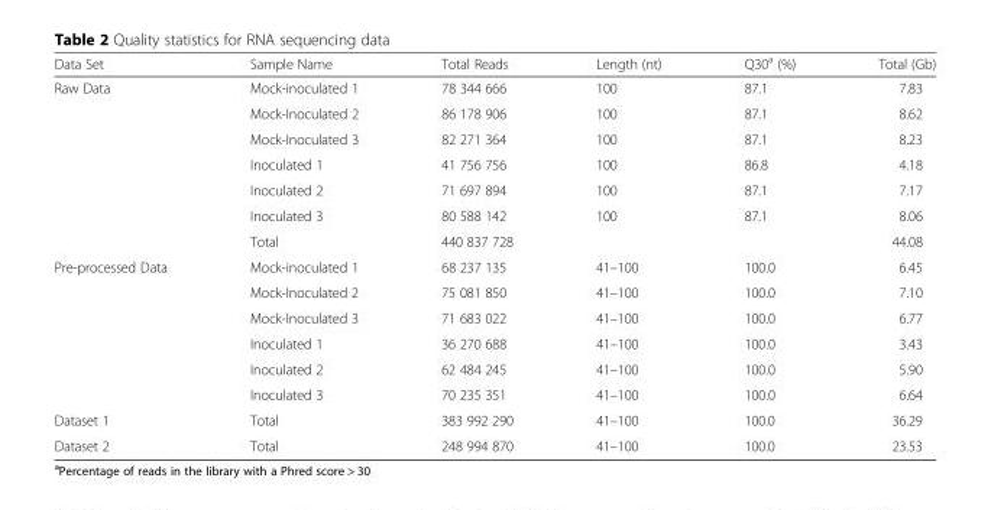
<table><thead><tr><td>Data Set</td><td>Sample Name</td><td>Total Reads</td><td>Length (nt)</td><td>Q30<sup>a</sup> (%)</td><td>Total (Gb)</td></tr></thead><tbody><tr><td rowspan="7">Raw Data</td><td>Mock-inoculated 1</td><td>78 344 666</td><td>100</td><td>87.1</td><td>7.83</td></tr><tr><td>Mock-Inoculated 2</td><td>86 178 906</td><td>100</td><td>87.1</td><td>8.62</td></tr><tr><td>Mock-Inoculated 3</td><td>82 271 364</td><td>100</td><td>87.1</td><td>8.23</td></tr><tr><td>Inoculated 1</td><td>41 756 756</td><td>100</td><td>86.8</td><td>4.18</td></tr><tr><td>Inoculated 2</td><td>71 697 894</td><td>100</td><td>87.1</td><td>7.17</td></tr><tr><td>Inoculated 3</td><td>80 588 142</td><td>100</td><td>87.1</td><td>8.06</td></tr><tr><td>Total</td><td>440 837 728</td><td></td><td></td><td>44.08</td></tr><tr><td rowspan="6">Pre-processed Data</td><td>Mock-inoculated 1</td><td>68 237 135</td><td>41–100</td><td>100.0</td><td>6.45</td></tr><tr><td>Mock-Inoculated 2</td><td>75 081 850</td><td>41–100</td><td>100.0</td><td>7.10</td></tr><tr><td>Mock-Inoculated 3</td><td>71 683 022</td><td>41–100</td><td>100.0</td><td>6.77</td></tr><tr><td>Inoculated 1</td><td>36 270 688</td><td>41–100</td><td>100.0</td><td>3.43</td></tr><tr><td>Inoculated 2</td><td>62 484 245</td><td>41–100</td><td>100.0</td><td>5.90</td></tr><tr><td>Inoculated 3</td><td>70 235 351</td><td>41–100</td><td>100.0</td><td>6.64</td></tr><tr><td>Dataset 1</td><td>Total</td><td>383 992 290</td><td>41–100</td><td>100.0</td><td>36.29</td></tr><tr><td>Dataset 2</td><td>Total</td><td>248 994 870</td><td>41–100</td><td>100.0</td><td>23.53</td></tr></tbody></table>